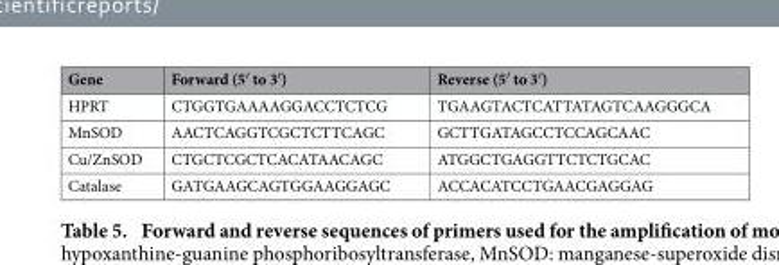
<table><thead><tr><td>Gene</td><td>Forward (5′ to 3′ )</td><td>Reverse (5′ to 3′ )</td></tr></thead><tbody><tr><td>HPRT</td><td>CTGGTGAAAAGGACCTCTCG</td><td>TGAAGTACTCATTATAGTCAAGGGCA</td></tr><tr><td>MnSOD</td><td>AACTCAGGTCGCTCTTCAGC</td><td>GCTTGATAGCCTCCAGCAAC</td></tr><tr><td>Cu/ZnSOD</td><td>CTGCTCGCTCACATAACAGC</td><td>ATGGCTGAGGTTCTCTGCAC</td></tr><tr><td>Catalase</td><td>GATGAAGCAGTGGAAGGAGC</td><td>ACCACATCCTGAACGAGGAG</td></tr></tbody></table>